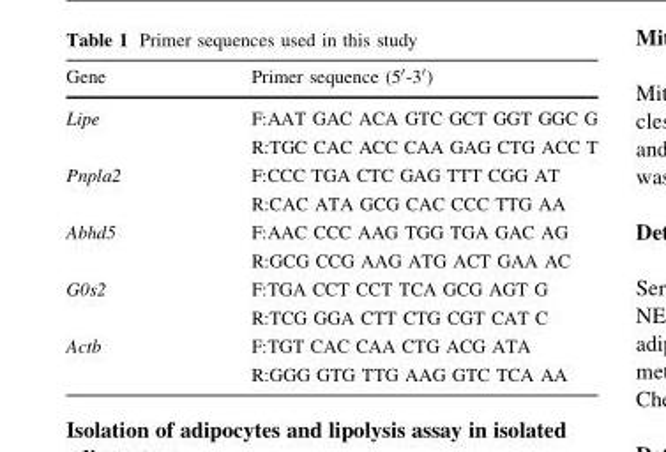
<table><thead><tr><td>Gene</td><td>Primer sequence (5′-3′)</td></tr></thead><tbody><tr><td rowspan="2">Lipe</td><td>F:AAT GAC ACA GTC GCT GGT GGC G</td></tr><tr><td>R:TGC CAC ACC CAA GAG CTG ACC T</td></tr><tr><td rowspan="2">Pnpla2</td><td>F:CCC TGA CTC GAG TTT CGG AT</td></tr><tr><td>R:CAC ATA GCG CAC CCC TTG AA</td></tr><tr><td rowspan="2">Abhd5</td><td>F:AAC CCC AAG TGG TGA GAC AG</td></tr><tr><td>R:GCG CCG AAG ATG ACT GAA AC</td></tr><tr><td rowspan="2">G0s2</td><td>F:TGA CCT CCT TCA GCG AGT G</td></tr><tr><td>R:TCG GGA CTT CTG CGT CAT C</td></tr><tr><td rowspan="2">Actb</td><td>F:TGT CAC CAA CTG ACG ATA</td></tr><tr><td>R:GGG GTG TTG AAG GTC TCA AA</td></tr></tbody></table>